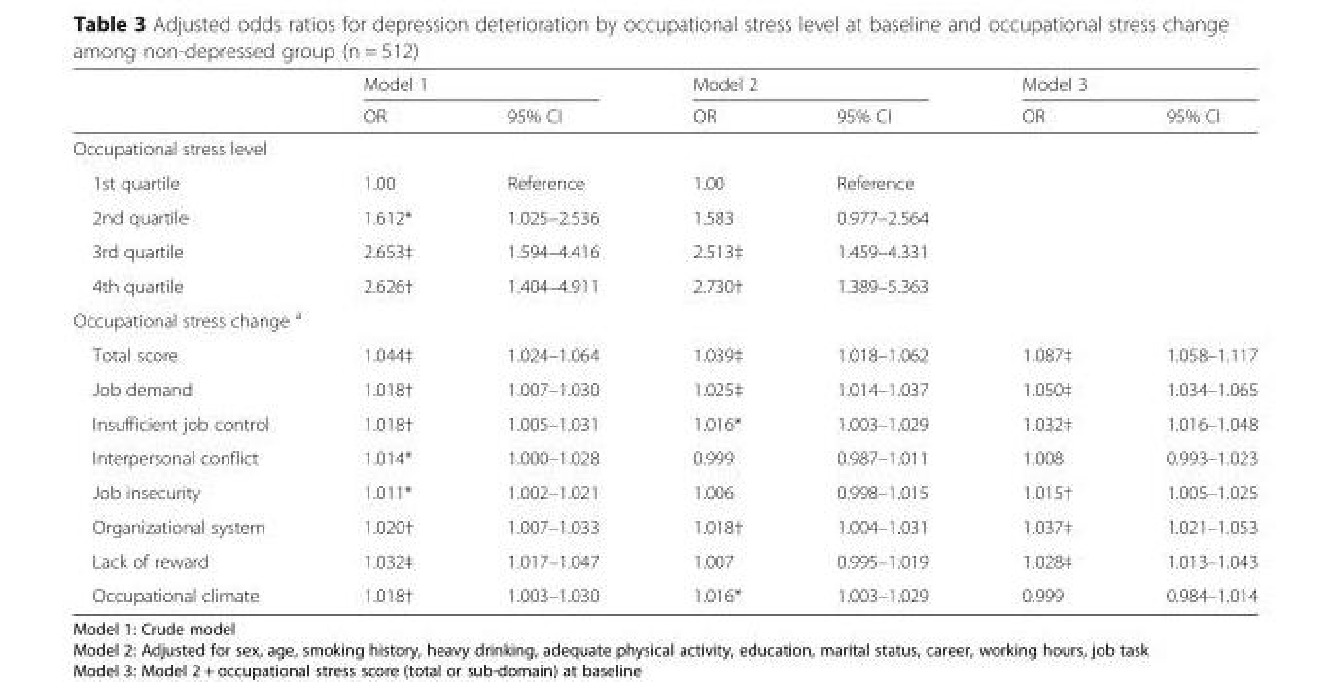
<table><thead><tr><td rowspan="2"></td><td colspan="2">Model 1</td><td colspan="2">Model 2</td><td colspan="2">Model 3</td></tr><tr><td>OR</td><td>95% CI</td><td>OR</td><td>95% CI</td><td>OR</td><td>95% CI</td></tr></thead><tbody><tr><td colspan="7">Occupational stress level</td></tr><tr><td>1st quartile</td><td>1.00</td><td>Reference</td><td>1.00</td><td>Reference</td><td></td><td></td></tr><tr><td>2nd quartile</td><td>1.612*</td><td>1.025–2.536</td><td>1.583</td><td>0.977–2.564</td><td></td><td></td></tr><tr><td>3rd quartile</td><td>2.653‡</td><td>1.594–4.416</td><td>2.513‡</td><td>1.459–4.331</td><td></td><td></td></tr><tr><td>4th quartile</td><td>2.626†</td><td>1.404–4.911</td><td>2.730†</td><td>1.389–5.363</td><td></td><td></td></tr><tr><td colspan="7">Occupational stress change <sup>a</sup></td></tr><tr><td>Total score</td><td>1.044‡</td><td>1.024–1.064</td><td>1.039‡</td><td>1.018–1.062</td><td>1.087‡</td><td>1.058–1.117</td></tr><tr><td>Job demand</td><td>1.018†</td><td>1.007–1.030</td><td>1.025‡</td><td>1.014–1.037</td><td>1.050‡</td><td>1.034–1.065</td></tr><tr><td>Insufficient job control</td><td>1.018†</td><td>1.005–1.031</td><td>1.016*</td><td>1.003–1.029</td><td>1.032‡</td><td>1.016–1.048</td></tr><tr><td>Interpersonal conflict</td><td>1.014*</td><td>1.000–1.028</td><td>0.999</td><td>0.987–1.011</td><td>1.008</td><td>0.993–1.023</td></tr><tr><td>Job insecurity</td><td>1.011*</td><td>1.002–1.021</td><td>1.006</td><td>0.998–1.015</td><td>1.015†</td><td>1.005–1.025</td></tr><tr><td>Organizational system</td><td>1.020†</td><td>1.007–1.033</td><td>1.018†</td><td>1.004–1.031</td><td>1.037‡</td><td>1.021–1.053</td></tr><tr><td>Lack of reward</td><td>1.032‡</td><td>1.017–1.047</td><td>1.007</td><td>0.995–1.019</td><td>1.028‡</td><td>1.013–1.043</td></tr><tr><td>Occupational climate</td><td>1.018†</td><td>1.003–1.030</td><td>1.016*</td><td>1.003–1.029</td><td>0.999</td><td>0.984–1.014</td></tr></tbody></table>